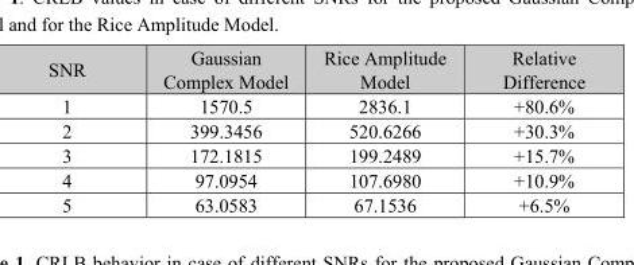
<table><thead><tr><td>SNR</td><td>Gaussian Complex Model</td><td>Rice Amplitude Model</td><td>Relative Difference</td></tr></thead><tbody><tr><td>1</td><td>1570.5</td><td>2836.1</td><td>+80.6%</td></tr><tr><td>2</td><td>399.3456</td><td>520.6266</td><td>+30.3%</td></tr><tr><td>3</td><td>172.1815</td><td>199.2489</td><td>+15.7%</td></tr><tr><td>4</td><td>97.0954</td><td>107.6980</td><td>+10.9%</td></tr><tr><td>5</td><td>63.0583</td><td>67.1536</td><td>+6.5%</td></tr></tbody></table>